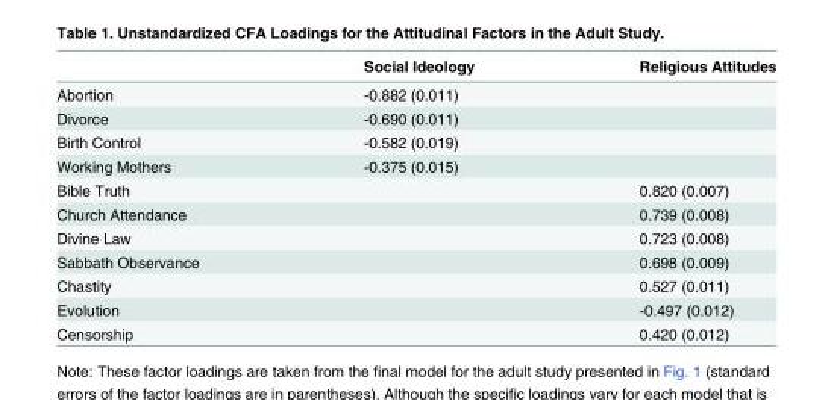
<table><thead><tr><td></td><td>Social Ideology</td><td>Religious Attitudes</td></tr></thead><tbody><tr><td>Abortion</td><td>-0.882 (0.011)</td><td></td></tr><tr><td>Divorce</td><td>-0.690 (0.011)</td><td></td></tr><tr><td>Birth Control</td><td>-0.582 (0.019)</td><td></td></tr><tr><td>Working Mothers</td><td>-0.375 (0.015)</td><td></td></tr><tr><td>Bible Truth</td><td></td><td>0.820 (0.007)</td></tr><tr><td>Church Attendance</td><td></td><td>0.739 (0.008)</td></tr><tr><td>Divine Law</td><td></td><td>0.723 (0.008)</td></tr><tr><td>Sabbath Observance</td><td></td><td>0.698 (0.009)</td></tr><tr><td>Chastity</td><td></td><td>0.527 (0.011)</td></tr><tr><td>Evolution</td><td></td><td>-0.497 (0.012)</td></tr><tr><td>Censorship</td><td></td><td>0.420 (0.012)</td></tr></tbody></table>